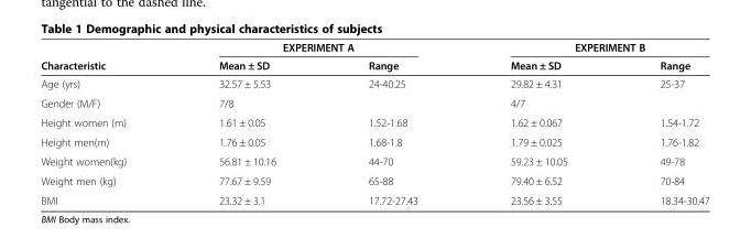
<table><thead><tr><td rowspan="2">Characteristic</td><td colspan="2">EXPERIMENT A</td><td colspan="2">EXPERIMENT B</td></tr><tr><td>Mean ± SD</td><td>Range</td><td>Mean ± SD</td><td>Range</td></tr></thead><tbody><tr><td>Age (yrs)</td><td>32.57 ± 5.53</td><td>24-40.25</td><td>29.82 ± 4.31</td><td>25-37</td></tr><tr><td>Gender (M/F)</td><td>7/8</td><td></td><td>4/7</td><td></td></tr><tr><td>Height women (m)</td><td>1.61 ± 0.05</td><td>1.52-1.68</td><td>1.62 ± 0.067</td><td>1.54-1.72</td></tr><tr><td>Height men(m)</td><td>1.76 ± 0.05</td><td>1.68-1.8</td><td>1.79 ± 0.025</td><td>1.76-1.82</td></tr><tr><td>Weight women(kg)</td><td>56.81 ± 10.16</td><td>44-70</td><td>59.23 ± 10.05</td><td>49-78</td></tr><tr><td>Weight men (kg)</td><td>77.67 ± 9.59</td><td>65-88</td><td>79.40 ± 6.52</td><td>70-84</td></tr><tr><td>BMI</td><td>23.32 ± 3.1</td><td>17.72-27.43</td><td>23.56 ± 3.55</td><td>18.34-30.47</td></tr></tbody></table>